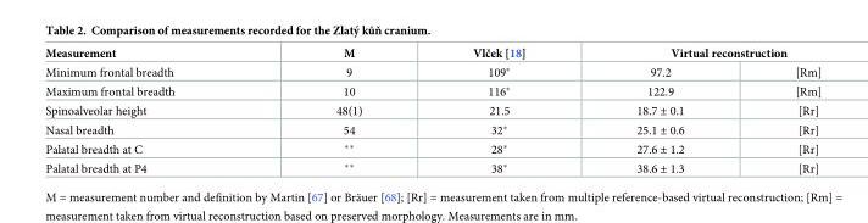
<table><thead><tr><td rowspan="2">Measurement Minimum frontal breadth</td><td rowspan="2">M 9</td><td rowspan="2">Vlček [18] 109*</td><td colspan="2">Virtual reconstruction</td></tr><tr><td>97.2</td><td>[Rm]</td></tr></thead><tbody><tr><td>Maximum frontal breadth</td><td>10</td><td>116*</td><td>122.9</td><td>[Rm]</td></tr><tr><td>Spinoalveolar height</td><td>48(1)</td><td>21.5</td><td>18.7 ± 0.1</td><td>[Rr]</td></tr><tr><td>Nasal breadth</td><td>54</td><td>32*</td><td>25.1 ± 0.6</td><td>[Rr]</td></tr><tr><td>Palatal breadth at C</td><td>**</td><td>28*</td><td>27.6 ± 1.2</td><td>[Rr]</td></tr><tr><td>Palatal breadth at P4</td><td>**</td><td>38*</td><td>38.6 ± 1.3</td><td>[Rr]</td></tr></tbody></table>